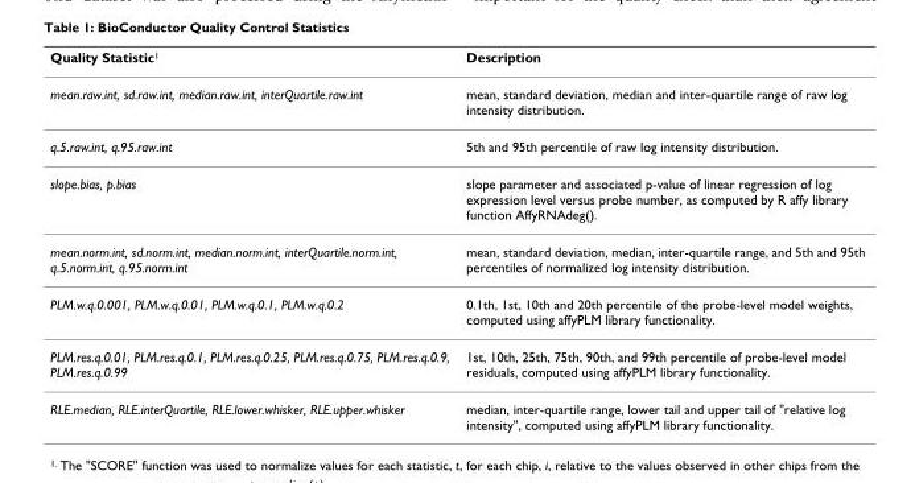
<table><thead><tr><td>Quality Statistic<sup>1</sup></td><td>Description</td></tr></thead><tbody><tr><td>mean.raw.int, sd.raw.int, median.raw.int, interQuartile.raw.int</td><td>mean, standard deviation, median and inter-quartile range of raw log intensity distribution.</td></tr><tr><td>q.5.raw.int, q.95.raw.int</td><td>5th and 95th percentile of raw log intensity distribution.</td></tr><tr><td>slope.bias, p.bias</td><td>slope parameter and associated p-value of linear regression of log expression level versus probe number, as computed by R affy library function AffyRNAdeg().</td></tr><tr><td>mean.norm.int, sd.norm.int, median.norm.int, interQuartile.norm.int, q.5.norm.int, q.95.norm.int</td><td>mean, standard deviation, median, inter-quartile range, and 5th and 95th percentiles of normalized log intensity distribution.</td></tr><tr><td>PLM.w.q.0.001, PLM.w.q.0.01, PLM.w.q.0.1, PLM.w.q.0.2</td><td>0.1th, 1st, 10th and 20th percentile of the probe-level model weights, computed using affyPLM library functionality.</td></tr><tr><td>PLM.res.q.0.01, PLM.res.q.0.1, PLM.res.q.0.25, PLM.res.q.0.75, PLM.res.q.0.9, PLM.res.q.0.99</td><td>1st, 10th, 25th, 75th, 90th, and 99th percentile of probe-level model residuals, computed using affyPLM library functionality.</td></tr><tr><td>RLE.median, RLE.interQuartile, RLE.lower.whisker, RLE.upper.whisker</td><td>median, inter-quartile range, lower tail and upper tail of &quot;relative log intensity&quot;, computed using affyPLM library functionality.</td></tr></tbody></table>